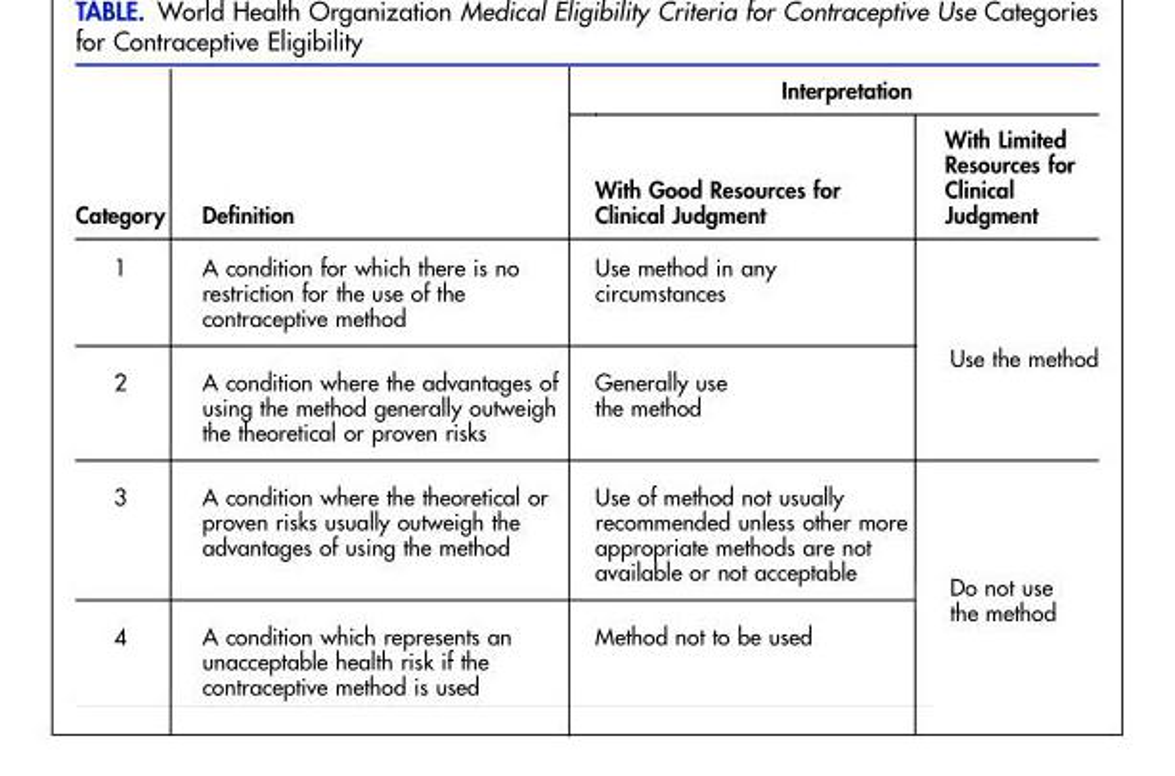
<table><thead><tr><td rowspan="2">Category</td><td rowspan="2">Definition</td><td colspan="2">Interpretation</td></tr><tr><td>With Good Resources for Clinical Judgment</td><td>With Limited Resources for Clinical Judgment</td></tr></thead><tbody><tr><td>1</td><td>A condition for which there is no restriction for the use of the contraceptive method</td><td>Use method in any circumstances</td><td rowspan="2">Use the method</td></tr><tr><td>2</td><td>A condition where the advantages of using the method generally outweigh the theoretical or proven risks</td><td>Generally use the method</td></tr><tr><td>3</td><td>A condition where the theoretical or proven risks usually outweigh the advantages of using the method</td><td>Use of method not usually recommended unless other more appropriate methods are not available or not acceptable</td><td rowspan="2">Do not use the method</td></tr><tr><td>4</td><td>A condition which represents an unacceptable health risk if the contraceptive method is used</td><td>Method not to be used</td></tr></tbody></table>